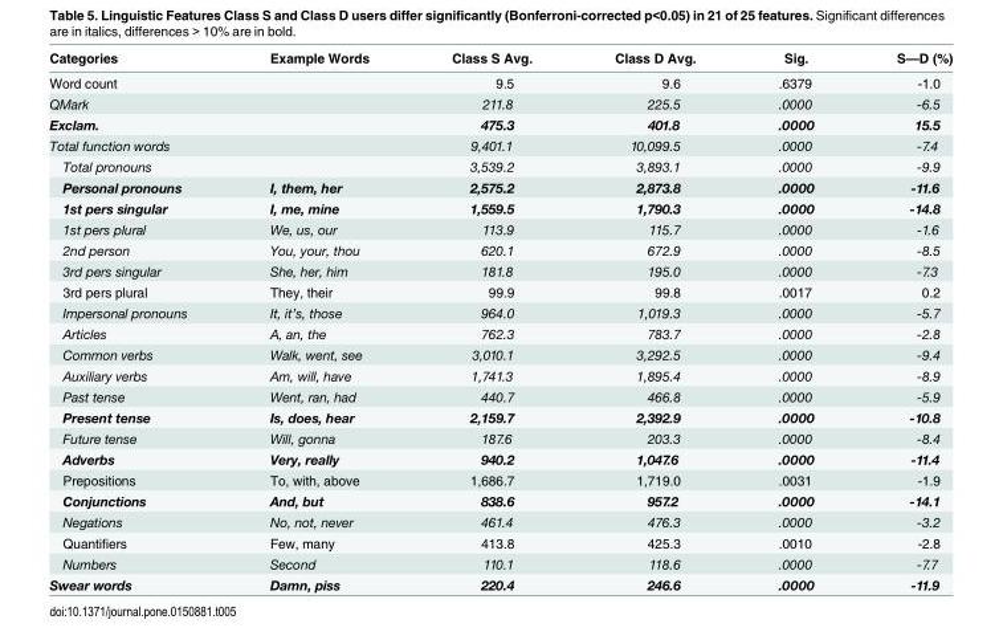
<table><thead><tr><td>Categories</td><td>Example Words</td><td>Class S Avg.</td><td>Class D Avg.</td><td>Sig.</td><td>S—D (%)</td></tr></thead><tbody><tr><td>Word count</td><td></td><td>9.5</td><td>9.6</td><td>.6379</td><td>-1.0</td></tr><tr><td>QMark</td><td></td><td>211.8</td><td>225.5</td><td>.0000</td><td>-6.5</td></tr><tr><td>Exclam.</td><td></td><td>475.3</td><td>401.8</td><td>.0000</td><td>15.5</td></tr><tr><td>Total function words</td><td></td><td>9,401.1</td><td>10,099.5</td><td>.0000</td><td>-7.4</td></tr><tr><td>Total pronouns</td><td></td><td>3,539.2</td><td>3,893.1</td><td>.0000</td><td>-9.9</td></tr><tr><td>Personal pronouns</td><td>I, them, her</td><td>2,575.2</td><td>2,873.8</td><td>.0000</td><td>-11.6</td></tr><tr><td>1st pers singular</td><td>I, me, mine</td><td>1,559.5</td><td>1,790.3</td><td>.0000</td><td>-14.8</td></tr><tr><td>1st pers plural</td><td>We, us, our</td><td>113.9</td><td>115.7</td><td>.0000</td><td>-1.6</td></tr><tr><td>2nd person</td><td>You, your, thou</td><td>620.1</td><td>672.9</td><td>.0000</td><td>-8.5</td></tr><tr><td>3rd pers singular</td><td>She, her, him</td><td>181.8</td><td>195.0</td><td>.0000</td><td>-7.3</td></tr><tr><td>3rd pers plural</td><td>They, their</td><td>99.9</td><td>99.8</td><td>.0017</td><td>0.2</td></tr><tr><td>Impersonal pronouns</td><td>It, it’s, those</td><td>964.0</td><td>1,019.3</td><td>.0000</td><td>-5.7</td></tr><tr><td>Articles</td><td>A, an, the</td><td>762.3</td><td>783.7</td><td>.0000</td><td>-2.8</td></tr><tr><td>Common verbs</td><td>Walk, went, see</td><td>3,010.1</td><td>3,292.5</td><td>.0000</td><td>-9.4</td></tr><tr><td>Auxiliary verbs</td><td>Am, will, have</td><td>1,741.3</td><td>1,895.4</td><td>.0000</td><td>-8.9</td></tr><tr><td>Past tense</td><td>Went, ran, had</td><td>440.7</td><td>466.8</td><td>.0000</td><td>-5.9</td></tr><tr><td>Present tense</td><td>Is, does, hear</td><td>2,159.7</td><td>2,392.9</td><td>.0000</td><td>-10.8</td></tr><tr><td>Future tense</td><td>Will, gonna</td><td>187.6</td><td>203.3</td><td>.0000</td><td>-8.4</td></tr><tr><td>Adverbs</td><td>Very, really</td><td>940.2</td><td>1,047.6</td><td>.0000</td><td>-11.4</td></tr><tr><td>Prepositions</td><td>To, with, above</td><td>1,686.7</td><td>1,719.0</td><td>.0031</td><td>-1.9</td></tr><tr><td>Conjunctions</td><td>And, but</td><td>838.6</td><td>957.2</td><td>.0000</td><td>-14.1</td></tr><tr><td>Negations</td><td>No, not, never</td><td>461.4</td><td>476.3</td><td>.0000</td><td>-3.2</td></tr><tr><td>Quantifiers</td><td>Few, many</td><td>413.8</td><td>425.3</td><td>.0010</td><td>-2.8</td></tr><tr><td>Numbers</td><td>Second</td><td>110.1</td><td>118.6</td><td>.0000</td><td>-7.7</td></tr><tr><td>Swear words</td><td>Damn, piss</td><td>220.4</td><td>246.6</td><td>.0000</td><td>-11.9</td></tr></tbody></table>